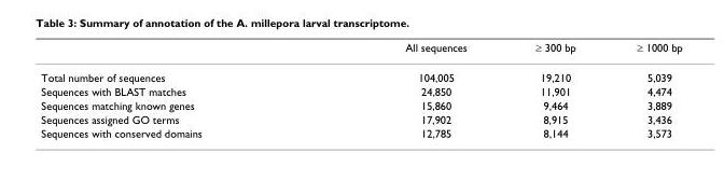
<table><thead><tr><td></td><td>All sequences</td><td>≥ 300 bp</td><td>≥ 1000 bp</td></tr></thead><tbody><tr><td>Total number of sequences</td><td>104,005</td><td>19,210</td><td>5,039</td></tr><tr><td>Sequences with BLAST matches</td><td>24,850</td><td>11,901</td><td>4,474</td></tr><tr><td>Sequences matching known genes</td><td>15,860</td><td>9,464</td><td>3,889</td></tr><tr><td>Sequences assigned GO terms</td><td>17,902</td><td>8,915</td><td>3,436</td></tr><tr><td>Sequences with conserved domains</td><td>12,785</td><td>8,144</td><td>3,573</td></tr></tbody></table>